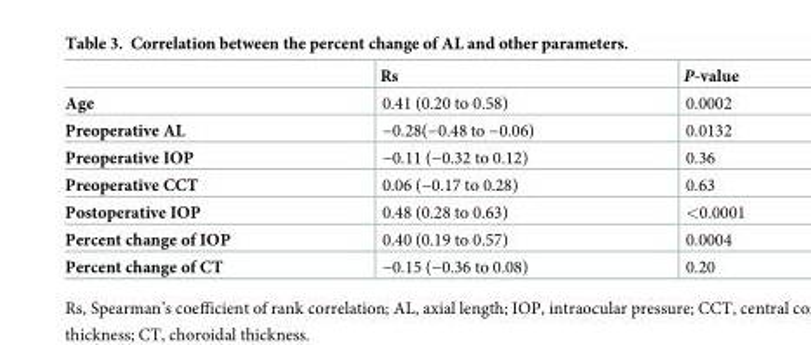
<table><thead><tr><td></td><td>Rs</td><td>P-value</td></tr></thead><tbody><tr><td>Age</td><td>0.41 (0.20 to 0.58)</td><td>0.0002</td></tr><tr><td>Preoperative AL</td><td>−0.28(−0.48 to −0.06)</td><td>0.0132</td></tr><tr><td>Preoperative IOP</td><td>−0.11 (−0.32 to 0.12)</td><td>0.36</td></tr><tr><td>Preoperative CCT</td><td>0.06 (−0.17 to 0.28)</td><td>0.63</td></tr><tr><td>Postoperative IOP</td><td>0.48 (0.28 to 0.63)</td><td>&lt;0.0001</td></tr><tr><td>Percent change of IOP</td><td>0.40 (0.19 to 0.57)</td><td>0.0004</td></tr><tr><td>Percent change of CT</td><td>−0.15 (−0.36 to 0.08)</td><td>0.20</td></tr></tbody></table>